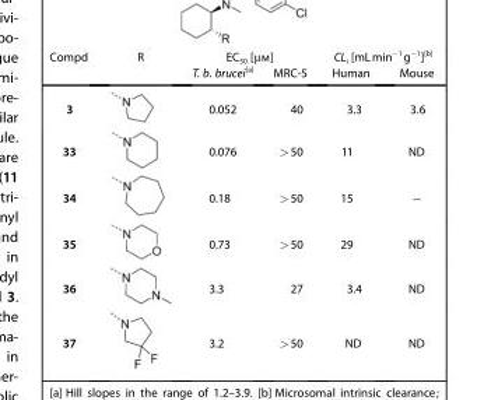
<table><thead><tr><td rowspan="2">Compd</td><td rowspan="2">R</td><td colspan="2">EC<sub>50</sub> [μm]</td><td colspan="2">CL<sub>i</sub> [mLmin<sup>−1</sup>g<sup>−1</sup>][b]</td></tr><tr><td>T. b. brucei[a]</td><td>MRC-5</td><td>Human</td><td>Mouse</td></tr></thead><tbody><tr><td>3</td><td></td><td>0.052</td><td>40</td><td>3.3</td><td>3.6</td></tr><tr><td>33</td><td></td><td>0.076</td><td>&gt;50</td><td>11</td><td>ND</td></tr><tr><td>34</td><td></td><td>0.18</td><td>&gt;50</td><td>15</td><td>--</td></tr><tr><td>35</td><td></td><td>0.73</td><td>&gt;50</td><td>29</td><td>ND</td></tr><tr><td>36</td><td></td><td>3.3</td><td>27</td><td>3.4</td><td>ND</td></tr><tr><td>37</td><td></td><td>3.2</td><td>&gt;50</td><td>ND</td><td>ND</td></tr></tbody></table>